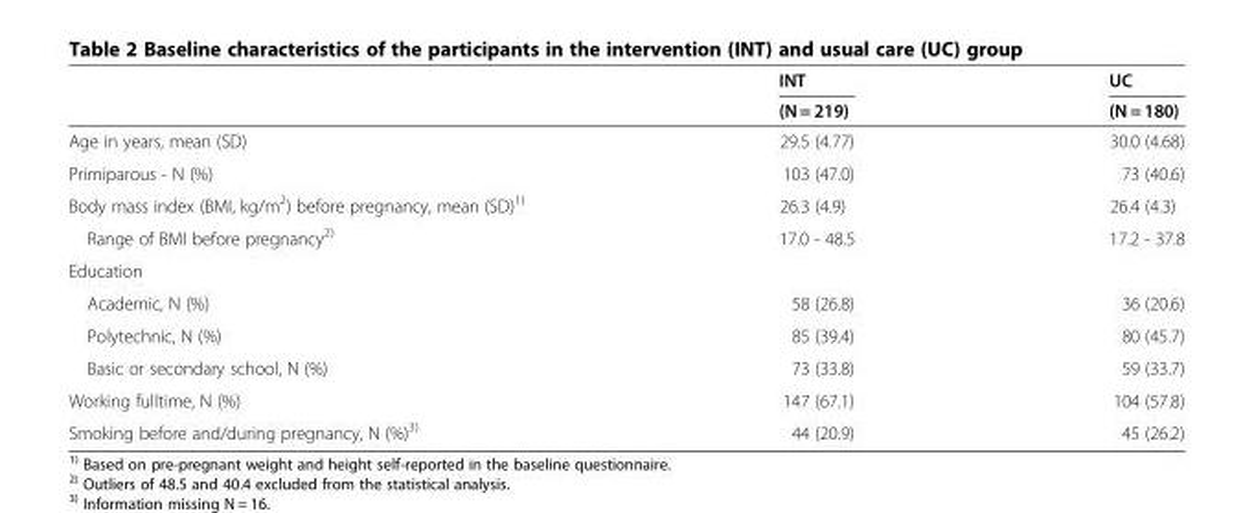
<table><thead><tr><td rowspan="2"></td><td rowspan="2">INT (N = 219)</td><td rowspan="2">UC (N = 180)</td></tr><tr></tr></thead><tbody><tr><td>Age in years, mean (SD)</td><td>29.5 (4.77)</td><td>30.0 (4.68)</td></tr><tr><td>Primiparous - N (%)</td><td>103 (47.0)</td><td>73 (40.6)</td></tr><tr><td>Body mass index (BMI, kg/m<sup>2</sup>) before pregnancy, mean (SD)<sup>1)</sup></td><td>26.3 (4.9)</td><td>26.4 (4.3)</td></tr><tr><td>Range of BMI before pregnancy<sup>2)</sup></td><td>17.0 - 48.5</td><td>17.2 - 37.8</td></tr><tr><td colspan="3">Education</td></tr><tr><td>Academic, N (%)</td><td>58 (26.8)</td><td>36 (20.6)</td></tr><tr><td>Polytechnic, N (%)</td><td>85 (39.4)</td><td>80 (45.7)</td></tr><tr><td>Basic or secondary school, N (%)</td><td>73 (33.8)</td><td>59 (33.7)</td></tr><tr><td>Working fulltime, N (%)</td><td>147 (67.1)</td><td>104 (57.8)</td></tr><tr><td>Smoking before and/during pregnancy, N (%)<sup>3)</sup></td><td>44 (20.9)</td><td>45 (26.2)</td></tr></tbody></table>